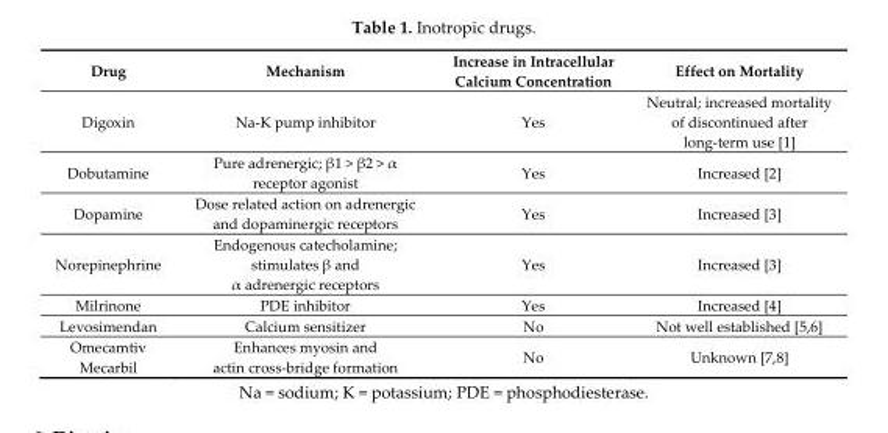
<table><thead><tr><td>Drug</td><td>Mechanism</td><td>Increase in Intracellular Calcium Concentration</td><td>Effect on Mortality</td></tr></thead><tbody><tr><td>Digoxin</td><td>Na-K pump inhibitor</td><td>Yes</td><td>Neutral; increased mortality of discontinued after long-term use [1]</td></tr><tr><td>Dobutamine</td><td>Pure adrenergic; β1 &gt; β2 &gt; α receptor agonist</td><td>Yes</td><td>Increased [2]</td></tr><tr><td>Dopamine</td><td>Dose related action on adrenergic and dopaminergic receptors</td><td>Yes</td><td>Increased [3]</td></tr><tr><td>Norepinephrine</td><td>Endogenous catecholamine; stimulates β and α adrenergic receptors</td><td>Yes</td><td>Increased [3]</td></tr><tr><td>Milrinone</td><td>PDE inhibitor</td><td>Yes</td><td>Increased [4]</td></tr><tr><td>Levosimendan</td><td>Calcium sensitizer</td><td>No</td><td>Not well established [5,6]</td></tr><tr><td>Omecamtiv Mecarbil</td><td>Enhances myosin and actin cross-bridge formation</td><td>No</td><td>Unknown [7,8]</td></tr></tbody></table>